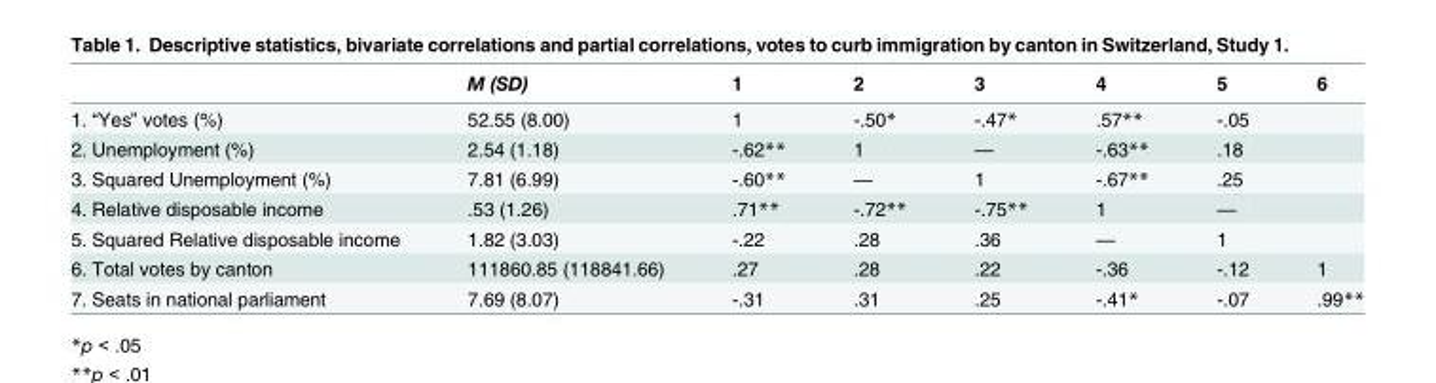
<table><thead><tr><td></td><td>M (SD)</td><td>1</td><td>2</td><td>3</td><td>4</td><td>5</td><td>6</td></tr></thead><tbody><tr><td>1. “Yes” votes (%)</td><td>52.55 (8.00)</td><td>1</td><td>-.50*</td><td>-.47*</td><td>.57**</td><td>-.05</td><td></td></tr><tr><td>2. Unemployment (%)</td><td>2.54 (1.18)</td><td>-.62**</td><td>1</td><td>—</td><td>-.63**</td><td>.18</td><td></td></tr><tr><td>3. Squared Unemployment (%)</td><td>7.81 (6.99)</td><td>-.60**</td><td>—</td><td>1</td><td>-.67**</td><td>.25</td><td></td></tr><tr><td>4. Relative disposable income</td><td>.53 (1.26)</td><td>.71**</td><td>-.72**</td><td>-.75**</td><td>1</td><td>—</td><td></td></tr><tr><td>5. Squared Relative disposable income</td><td>1.82 (3.03)</td><td>-.22</td><td>.28</td><td>.36</td><td>—</td><td>1</td><td></td></tr><tr><td>6. Total votes by canton</td><td>111860.85 (118841.66)</td><td>.27</td><td>.28</td><td>.22</td><td>-.36</td><td>-.12</td><td>1</td></tr><tr><td>7. Seats in national parliament</td><td>7.69 (8.07)</td><td>-.31</td><td>.31</td><td>.25</td><td>-.41*</td><td>-.07</td><td>.99**</td></tr></tbody></table>